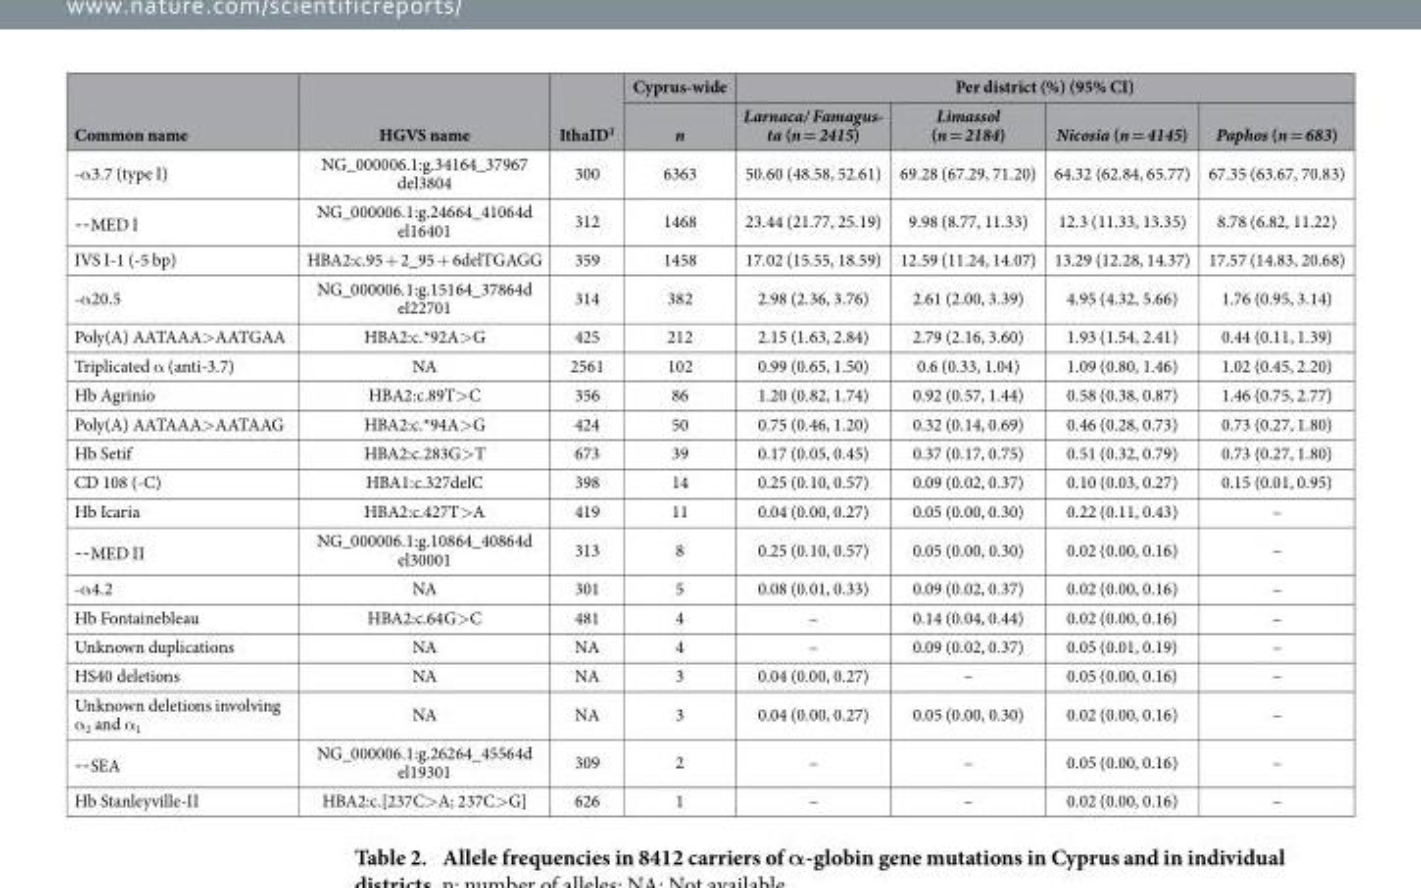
<table><thead><tr><td rowspan="2">Common name</td><td rowspan="2">HGVS name</td><td rowspan="2">IthaID<sup>1</sup></td><td rowspan="2">Cyprus-wide n</td><td colspan="4">Per district (%) (95% CI)</td></tr><tr><td>Larnaca/ Famagus- ta (n = 2415)</td><td>Limassol (n = 2184)</td><td>Nicosia (n = 4145)</td><td>Paphos (n = 683)</td></tr></thead><tbody><tr><td>-α 3.7 (type I)</td><td>NG_000006.1:g.34164_37967 del3804</td><td>300</td><td>6363</td><td>50.60 (48.58, 52.61)</td><td>69.28 (67.29, 71.20)</td><td>64.32 (62.84, 65.77)</td><td>67.35 (63.67, 70.83)</td></tr><tr><td>--MED I</td><td>NG_000006.1:g.24664_41064d el16401</td><td>312</td><td>1468</td><td>23.44 (21.77, 25.19)</td><td>9.98 (8.77, 11.33)</td><td>12.3 (11.33, 13.35)</td><td>8.78 (6.82, 11.22)</td></tr><tr><td>IVS I-1 (- 5 bp)</td><td>HBA2:c.95 + 2_95 + 6delTGAGG</td><td>359</td><td>1458</td><td>17.02 (15.55, 18.59)</td><td>12.59 (11.24, 14.07)</td><td>13.29 (12.28, 14.37)</td><td>17.57 (14.83, 20.68)</td></tr><tr><td>-α 20.5</td><td>NG_000006.1:g.15164_37864d el22701</td><td>314</td><td>382</td><td>2.98 (2.36, 3.76)</td><td>2.61 (2.00, 3.39)</td><td>4.95 (4.32, 5.66)</td><td>1.76 (0.95, 3.14)</td></tr><tr><td>Poly(A) AATAAA&gt; AATGAA</td><td>HBA2:c.*92A&gt; G</td><td>425</td><td>212</td><td>2.15 (1.63, 2.84)</td><td>2.79 (2.16, 3.60)</td><td>1.93 (1.54, 2.41)</td><td>0.44 (0.11, 1.39)</td></tr><tr><td>Triplicated α (anti-3.7)</td><td>NA</td><td>2561</td><td>102</td><td>0.99 (0.65, 1.50)</td><td>0.6 (0.33, 1.04)</td><td>1.09 (0.80, 1.46)</td><td>1.02 (0.45, 2.20)</td></tr><tr><td>Hb Agrinio</td><td>HBA2:c.89T&gt; C</td><td>356</td><td>86</td><td>1.20 (0.82, 1.74)</td><td>0.92 (0.57, 1.44)</td><td>0.58 (0.38, 0.87)</td><td>1.46 (0.75, 2.77)</td></tr><tr><td>Poly(A) AATAAA&gt; AATAAG</td><td>HBA2:c.*94A&gt; G</td><td>424</td><td>50</td><td>0.75 (0.46, 1.20)</td><td>0.32 (0.14, 0.69)</td><td>0.46 (0.28, 0.73)</td><td>0.73 (0.27, 1.80)</td></tr><tr><td>Hb Setif</td><td>HBA2:c.283G&gt; T</td><td>673</td><td>39</td><td>0.17 (0.05, 0.45)</td><td>0.37 (0.17, 0.75)</td><td>0.51 (0.32, 0.79)</td><td>0.73 (0.27, 1.80)</td></tr><tr><td>CD 108 (-C)</td><td>HBA1:c.327delC</td><td>398</td><td>14</td><td>0.25 (0.10, 0.57)</td><td>0.09 (0.02, 0.37)</td><td>0.10 (0.03, 0.27)</td><td>0.15 (0.01, 0.95)</td></tr><tr><td>Hb Icaria</td><td>HBA2:c.427T&gt; A</td><td>419</td><td>11</td><td>0.04 (0.00, 0.27)</td><td>0.05 (0.00, 0.30)</td><td>0.22 (0.11, 0.43)</td><td>–</td></tr><tr><td>--MED II</td><td>NG_000006.1:g.10864_40864d el30001</td><td>313</td><td>8</td><td>0.25 (0.10, 0.57)</td><td>0.05 (0.00, 0.30)</td><td>0.02 (0.00, 0.16)</td><td>–</td></tr><tr><td>-α 4.2</td><td>NA</td><td>301</td><td>5</td><td>0.08 (0.01, 0.33)</td><td>0.09 (0.02, 0.37)</td><td>0.02 (0.00, 0.16)</td><td>–</td></tr><tr><td>Hb Fontainebleau</td><td>HBA2:c.64G&gt; C</td><td>481</td><td>4</td><td>–</td><td>0.14 (0.04, 0.44)</td><td>0.02 (0.00, 0.16)</td><td>–</td></tr><tr><td>Unknown duplications</td><td>NA</td><td>NA</td><td>4</td><td>–</td><td>0.09 (0.02, 0.37)</td><td>0.05 (0.01, 0.19)</td><td>–</td></tr><tr><td>HS40 deletions</td><td>NA</td><td>NA</td><td>3</td><td>0.04 (0.00, 0.27)</td><td>–</td><td>0.05 (0.00, 0.16)</td><td>–</td></tr><tr><td>Unknown deletions involving α <sub>2</sub> and α <sub>1</sub></td><td>NA</td><td>NA</td><td>3</td><td>0.04 (0.00, 0.27)</td><td>0.05 (0.00, 0.30)</td><td>0.02 (0.00, 0.16)</td><td>–</td></tr><tr><td>--SEA</td><td>NG_000006.1:g.26264_45564d el19301</td><td>309</td><td>2</td><td>–</td><td>–</td><td>0.05 (0.00, 0.16)</td><td>–</td></tr><tr><td>Hb Stanleyville-II</td><td>HBA2:c.[237C&gt; A; 237C&gt; G]</td><td>626</td><td>1</td><td>–</td><td>–</td><td>0.02 (0.00, 0.16)</td><td>–</td></tr></tbody></table>